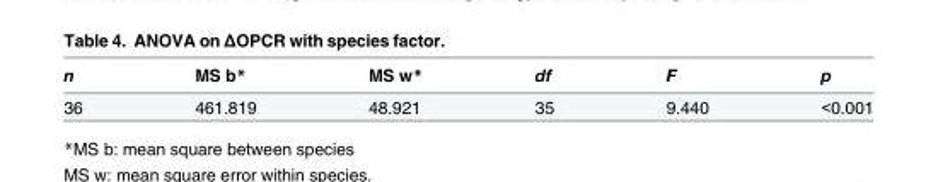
<table><thead><tr><td>n</td><td>MS b*</td><td>MS w*</td><td>df</td><td>F</td><td>p</td></tr></thead><tbody><tr><td>36</td><td>461.819</td><td>48.921</td><td>35</td><td>9.440</td><td>&lt;0.001</td></tr></tbody></table>